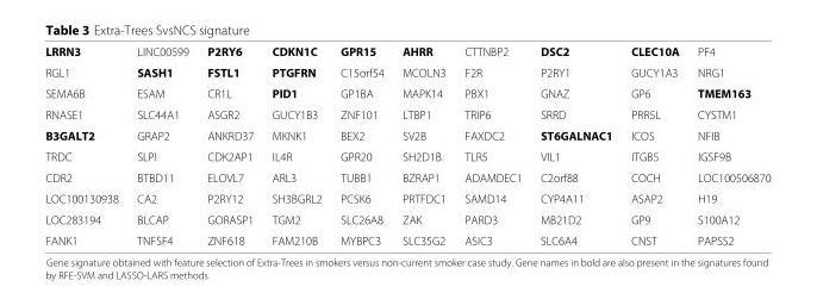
<table><tbody><tr><td>LRRN3</td><td>LINC00599</td><td>P2RY6</td><td>CDKN1C</td><td>GPR15</td><td>AHRR</td><td>CTTNBP2</td><td>DSC2</td><td>CLEC10A</td><td>PF4</td></tr><tr><td>RGL1</td><td>SASH1</td><td>FSTL1</td><td>PTGFRN</td><td>C15orf54</td><td>MCOLN3</td><td>F2R</td><td>P2RY1</td><td>GUCY1A3</td><td>NRG1</td></tr><tr><td>SEMA6B</td><td>ESAM</td><td>CR1L</td><td>PID1</td><td>GP1BA</td><td>MAPK14</td><td>PBX1</td><td>GNAZ</td><td>GP6</td><td>TMEM163</td></tr><tr><td>RNASE1</td><td>SLC44A1</td><td>ASGR2</td><td>GUCY1B3</td><td>ZNF101</td><td>LTBP1</td><td>TRIP6</td><td>SRRD</td><td>PRR5L</td><td>CYSTM1</td></tr><tr><td>B3GALT2</td><td>GRAP2</td><td>ANKRD37</td><td>MKNK1</td><td>BEX2</td><td>SV2B</td><td>FAXDC2</td><td>ST6GALNAC1</td><td>ICOS</td><td>NFIB</td></tr><tr><td>TRDC</td><td>SLPI</td><td>CDK2AP1</td><td>IL4R</td><td>GPR20</td><td>SH2D1B</td><td>TLR5</td><td>VIL1</td><td>ITGB5</td><td>IGSF9B</td></tr><tr><td>CDR2</td><td>BTBD11</td><td>ELOVL7</td><td>ARL3</td><td>TUBB1</td><td>BZRAP1</td><td>ADAMDEC1</td><td>C2orf88</td><td>COCH</td><td>LOC100506870</td></tr><tr><td>LOC100130938</td><td>CA2</td><td>P2RY12</td><td>SH3BGRL2</td><td>PCSK6</td><td>PRTFDC1</td><td>SAMD14</td><td>CYP4A11</td><td>ASAP2</td><td>H19</td></tr><tr><td>LOC283194</td><td>BLCAP</td><td>GORASP1</td><td>TGM2</td><td>SLC26A8</td><td>ZAK</td><td>PARD3</td><td>MB21D2</td><td>GP9</td><td>S100A12</td></tr><tr><td>FANK1</td><td>TNFSF4</td><td>ZNF618</td><td>FAM210B</td><td>MYBPC3</td><td>SLC35G2</td><td>ASIC3</td><td>SLC6A4</td><td>CNST</td><td>PAPSS2</td></tr></tbody></table>